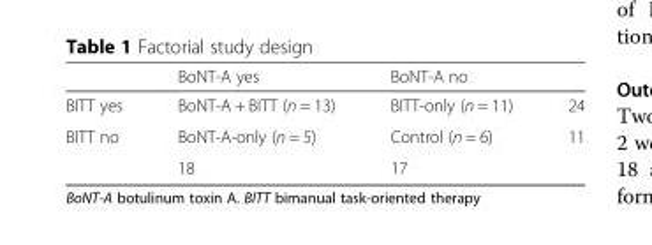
<table><thead><tr><td></td><td>BoNT-A yes</td><td>BoNT-A no</td><td></td></tr></thead><tbody><tr><td>BITT yes</td><td>BoNT-A + BITT (n = 13)</td><td>BITT-only (n = 11)</td><td>24</td></tr><tr><td rowspan="2">BITT no</td><td>BoNT-A-only (n = 5)</td><td>Control (n = 6)</td><td>11</td></tr><tr><td>18</td><td>17</td><td></td></tr></tbody></table>